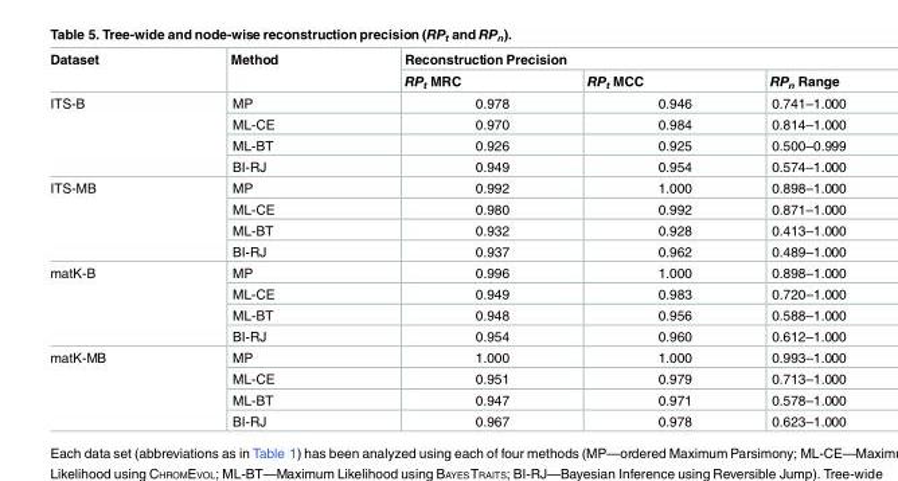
<table><thead><tr><td rowspan="2">Dataset</td><td rowspan="2">Method</td><td colspan="3">Reconstruction Precision</td></tr><tr><td>RP<sub>t</sub> MRC</td><td>RP<sub>t</sub> MCC</td><td>RP<sub>n</sub> Range</td></tr></thead><tbody><tr><td rowspan="4">ITS-B</td><td>MP</td><td>0.978</td><td>0.946</td><td>0.741–1.000</td></tr><tr><td>ML-CE</td><td>0.970</td><td>0.984</td><td>0.814–1.000</td></tr><tr><td>ML-BT</td><td>0.926</td><td>0.925</td><td>0.500–0.999</td></tr><tr><td>BI-RJ</td><td>0.949</td><td>0.954</td><td>0.574–1.000</td></tr><tr><td rowspan="4">ITS-MB</td><td>MP</td><td>0.992</td><td>1.000</td><td>0.898–1.000</td></tr><tr><td>ML-CE</td><td>0.980</td><td>0.992</td><td>0.871–1.000</td></tr><tr><td>ML-BT</td><td>0.932</td><td>0.928</td><td>0.413–1.000</td></tr><tr><td>BI-RJ</td><td>0.937</td><td>0.962</td><td>0.489–1.000</td></tr><tr><td rowspan="4">matK-B</td><td>MP</td><td>0.996</td><td>1.000</td><td>0.898–1.000</td></tr><tr><td>ML-CE</td><td>0.949</td><td>0.983</td><td>0.720–1.000</td></tr><tr><td>ML-BT</td><td>0.948</td><td>0.956</td><td>0.588–1.000</td></tr><tr><td>BI-RJ</td><td>0.954</td><td>0.960</td><td>0.612–1.000</td></tr><tr><td rowspan="4">matK-MB</td><td>MP</td><td>1.000</td><td>1.000</td><td>0.993–1.000</td></tr><tr><td>ML-CE</td><td>0.951</td><td>0.979</td><td>0.713–1.000</td></tr><tr><td>ML-BT</td><td>0.947</td><td>0.971</td><td>0.578–1.000</td></tr><tr><td>BI-RJ</td><td>0.967</td><td>0.978</td><td>0.623–1.000</td></tr></tbody></table>